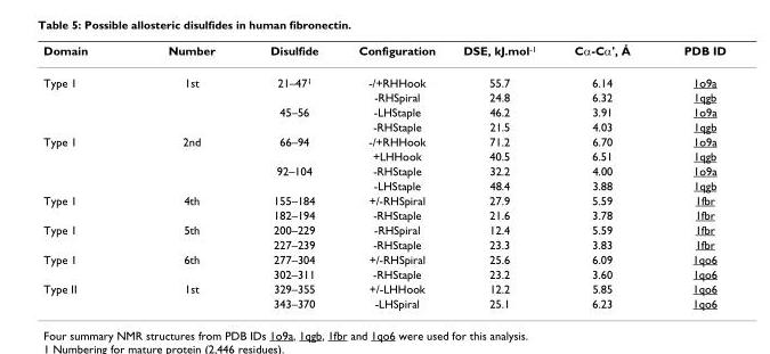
<table><thead><tr><td>Domain</td><td>Number</td><td>Disulfide</td><td>Configuration</td><td>DSE, kJ.mol<sup>-1</sup></td><td>Cα-Cα&#x27;, Å</td><td>PDB ID</td></tr></thead><tbody><tr><td rowspan="4">Type 1</td><td>1st</td><td>21–47<sup>1</sup></td><td>-/+RHHook</td><td>55.7</td><td>6.14</td><td>1o9a</td></tr><tr><td></td><td></td><td>-RHSpiral</td><td>24.8</td><td>6.32</td><td>1qgb</td></tr><tr><td></td><td>45–56</td><td>-LHStaple</td><td>46.2</td><td>3.91</td><td>1o9a</td></tr><tr><td></td><td></td><td>-RHStaple</td><td>21.5</td><td>4.03</td><td>1qgb</td></tr><tr><td rowspan="4">Type 1</td><td>2nd</td><td>66–94</td><td>-/+RHHook</td><td>71.2</td><td>6.70</td><td>1o9a</td></tr><tr><td></td><td></td><td>+LHHook</td><td>40.5</td><td>6.51</td><td>1qgb</td></tr><tr><td></td><td>92–104</td><td>-RHStaple</td><td>32.2</td><td>4.00</td><td>1o9a</td></tr><tr><td></td><td></td><td>-LHStaple</td><td>48.4</td><td>3.88</td><td>1qgb</td></tr><tr><td rowspan="2">Type 1</td><td>4th</td><td>155–184</td><td>+/-RHSpiral</td><td>27.9</td><td>5.59</td><td>1fbr</td></tr><tr><td></td><td>182–194</td><td>-RHStaple</td><td>21.6</td><td>3.78</td><td>1fbr</td></tr><tr><td rowspan="2">Type 1</td><td>5th</td><td>200–229</td><td>-RHSpiral</td><td>12.4</td><td>5.59</td><td>1fbr</td></tr><tr><td></td><td>227–239</td><td>-RHStaple</td><td>23.3</td><td>3.83</td><td>1fbr</td></tr><tr><td rowspan="2">Type 1</td><td>6th</td><td>277–304</td><td>+/-RHSpiral</td><td>25.6</td><td>6.09</td><td>1qo6</td></tr><tr><td></td><td>302–311</td><td>-RHStaple</td><td>23.2</td><td>3.60</td><td>1qo6</td></tr><tr><td rowspan="2">Type II</td><td>1st</td><td>329–355</td><td>+/-LHHook</td><td>12.2</td><td>5.85</td><td>1qo6</td></tr><tr><td></td><td>343–370</td><td>-LHSpiral</td><td>25.1</td><td>6.23</td><td>1qo6</td></tr></tbody></table>